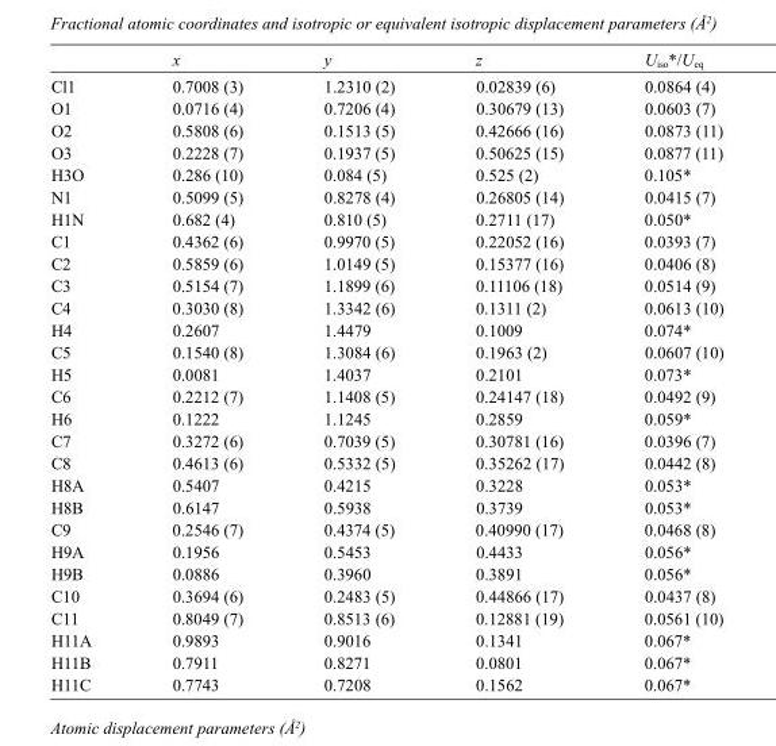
<table><thead><tr><td></td><td>x</td><td>y</td><td>z</td><td>U<sub>iso</sub>*/U<sub>eq</sub></td></tr></thead><tbody><tr><td>Cl1</td><td>0.7008 (3)</td><td>1.2310 (2)</td><td>0.02839 (6)</td><td>0.0864 (4)</td></tr><tr><td>O1</td><td>0.0716 (4)</td><td>0.7206 (4)</td><td>0.30679 (13)</td><td>0.0603 (7)</td></tr><tr><td>O2</td><td>0.5808 (6)</td><td>0.1513 (5)</td><td>0.42666 (16)</td><td>0.0873 (11)</td></tr><tr><td>O3</td><td>0.2228 (7)</td><td>0.1937 (5)</td><td>0.50625 (15)</td><td>0.0877 (11)</td></tr><tr><td>H3O</td><td>0.286 (10)</td><td>0.084 (5)</td><td>0.525 (2)</td><td>0.105*</td></tr><tr><td>N1</td><td>0.5099 (5)</td><td>0.8278 (4)</td><td>0.26805 (14)</td><td>0.0415 (7)</td></tr><tr><td>H1N</td><td>0.682 (4)</td><td>0.810 (5)</td><td>0.2711 (17)</td><td>0.050*</td></tr><tr><td>C1</td><td>0.4362 (6)</td><td>0.9970 (5)</td><td>0.22052 (16)</td><td>0.0393 (7)</td></tr><tr><td>C2</td><td>0.5859 (6)</td><td>1.0149 (5)</td><td>0.15377 (16)</td><td>0.0406 (8)</td></tr><tr><td>C3</td><td>0.5154 (7)</td><td>1.1899 (6)</td><td>0.11106 (18)</td><td>0.0514 (9)</td></tr><tr><td>C4</td><td>0.3030 (8)</td><td>1.3342 (6)</td><td>0.1311 (2)</td><td>0.0613 (10)</td></tr><tr><td>H4</td><td>0.2607</td><td>1.4479</td><td>0.1009</td><td>0.074*</td></tr><tr><td>C5</td><td>0.1540 (8)</td><td>1.3084 (6)</td><td>0.1963 (2)</td><td>0.0607 (10)</td></tr><tr><td>H5</td><td>0.0081</td><td>1.4037</td><td>0.2101</td><td>0.073*</td></tr><tr><td>C6</td><td>0.2212 (7)</td><td>1.1408 (5)</td><td>0.24147 (18)</td><td>0.0492 (9)</td></tr><tr><td>H6</td><td>0.1222</td><td>1.1245</td><td>0.2859</td><td>0.059*</td></tr><tr><td>C7</td><td>0.3272 (6)</td><td>0.7039 (5)</td><td>0.30781 (16)</td><td>0.0396 (7)</td></tr><tr><td>C8</td><td>0.4613 (6)</td><td>0.5332 (5)</td><td>0.35262 (17)</td><td>0.0442 (8)</td></tr><tr><td>H8A</td><td>0.5407</td><td>0.4215</td><td>0.3228</td><td>0.053*</td></tr><tr><td>H8B</td><td>0.6147</td><td>0.5938</td><td>0.3739</td><td>0.053*</td></tr><tr><td>C9</td><td>0.2546 (7)</td><td>0.4374 (5)</td><td>0.40990 (17)</td><td>0.0468 (8)</td></tr><tr><td>H9A</td><td>0.1956</td><td>0.5453</td><td>0.4433</td><td>0.056*</td></tr><tr><td>H9B</td><td>0.0886</td><td>0.3960</td><td>0.3891</td><td>0.056*</td></tr><tr><td>C10</td><td>0.3694 (6)</td><td>0.2483 (5)</td><td>0.44866 (17)</td><td>0.0437 (8)</td></tr><tr><td>C11</td><td>0.8049 (7)</td><td>0.8513 (6)</td><td>0.12881 (19)</td><td>0.0561 (10)</td></tr><tr><td>H11A</td><td>0.9893</td><td>0.9016</td><td>0.1341</td><td>0.067*</td></tr><tr><td>H11B</td><td>0.7911</td><td>0.8271</td><td>0.0801</td><td>0.067*</td></tr><tr><td>H11C</td><td>0.7743</td><td>0.7208</td><td>0.1562</td><td>0.067*</td></tr></tbody></table>